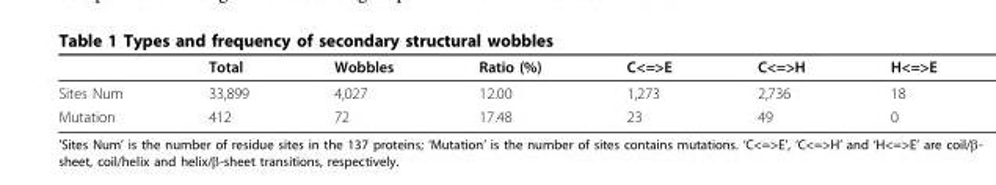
<table><thead><tr><td></td><td>Total</td><td>Wobbles</td><td>Ratio (%)</td><td>C&lt;=&gt;E</td><td>C&lt;=&gt;H</td><td>H&lt;=&gt;E</td></tr></thead><tbody><tr><td>Sites Num</td><td>33,899</td><td>4,027</td><td>12.00</td><td>1,273</td><td>2,736</td><td>18</td></tr><tr><td>Mutation</td><td>412</td><td>72</td><td>17.48</td><td>23</td><td>49</td><td>0</td></tr></tbody></table>